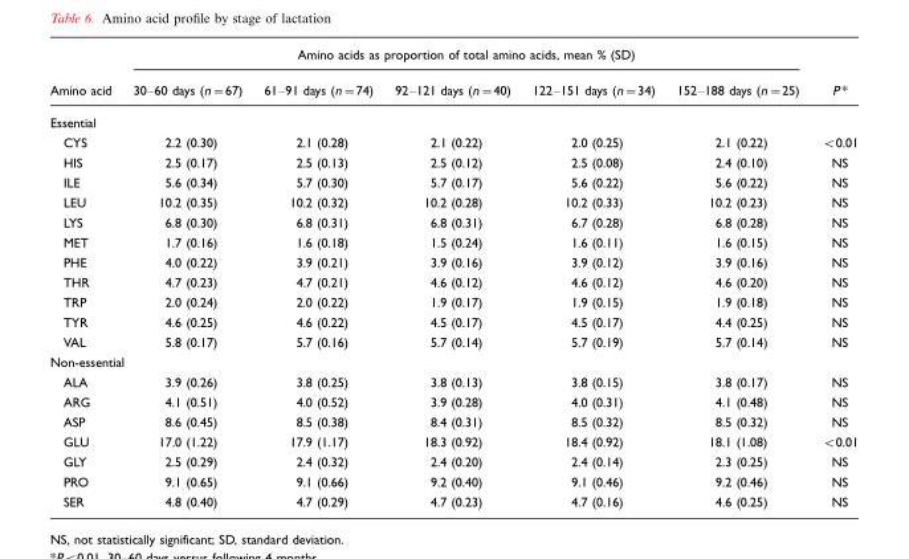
<table><thead><tr><td rowspan="2">Amino acid</td><td colspan="5">Amino acids as proportion of total amino acids, mean % (SD)</td><td rowspan="2">P *</td></tr><tr><td>30–60 days (n=67)</td><td>61–91 days (n=74)</td><td>92–121 days (n=40)</td><td>122–151 days (n=34)</td><td>152–188 days (n=25)</td></tr></thead><tbody><tr><td colspan="7">Essential</td></tr><tr><td>CYS</td><td>2.2 (0.30)</td><td>2.1 (0.28)</td><td>2.1 (0.22)</td><td>2.0 (0.25)</td><td>2.1 (0.22)</td><td>&lt;0.01</td></tr><tr><td>HIS</td><td>2.5 (0.17)</td><td>2.5 (0.13)</td><td>2.5 (0.12)</td><td>2.5 (0.08)</td><td>2.4 (0.10)</td><td>NS</td></tr><tr><td>ILE</td><td>5.6 (0.34)</td><td>5.7 (0.30)</td><td>5.7 (0.17)</td><td>5.6 (0.22)</td><td>5.6 (0.22)</td><td>NS</td></tr><tr><td>LEU</td><td>10.2 (0.35)</td><td>10.2 (0.32)</td><td>10.2 (0.28)</td><td>10.2 (0.33)</td><td>10.2 (0.23)</td><td>NS</td></tr><tr><td>LYS</td><td>6.8 (0.30)</td><td>6.8 (0.31)</td><td>6.8 (0.31)</td><td>6.7 (0.28)</td><td>6.8 (0.28)</td><td>NS</td></tr><tr><td>MET</td><td>1.7 (0.16)</td><td>1.6 (0.18)</td><td>1.5 (0.24)</td><td>1.6 (0.11)</td><td>1.6 (0.15)</td><td>NS</td></tr><tr><td>PHE</td><td>4.0 (0.22)</td><td>3.9 (0.21)</td><td>3.9 (0.16)</td><td>3.9 (0.12)</td><td>3.9 (0.16)</td><td>NS</td></tr><tr><td>THR</td><td>4.7 (0.23)</td><td>4.7 (0.21)</td><td>4.6 (0.12)</td><td>4.6 (0.12)</td><td>4.6 (0.20)</td><td>NS</td></tr><tr><td>TRP</td><td>2.0 (0.24)</td><td>2.0 (0.22)</td><td>1.9 (0.17)</td><td>1.9 (0.15)</td><td>1.9 (0.18)</td><td>NS</td></tr><tr><td>TYR</td><td>4.6 (0.25)</td><td>4.6 (0.22)</td><td>4.5 (0.17)</td><td>4.5 (0.17)</td><td>4.4 (0.25)</td><td>NS</td></tr><tr><td>VAL</td><td>5.8 (0.17)</td><td>5.7 (0.16)</td><td>5.7 (0.14)</td><td>5.7 (0.19)</td><td>5.7 (0.14)</td><td>NS</td></tr><tr><td colspan="7">Non-essential</td></tr><tr><td>ALA</td><td>3.9 (0.26)</td><td>3.8 (0.25)</td><td>3.8 (0.13)</td><td>3.8 (0.15)</td><td>3.8 (0.17)</td><td>NS</td></tr><tr><td>ARG</td><td>4.1 (0.51)</td><td>4.0 (0.52)</td><td>3.9 (0.28)</td><td>4.0 (0.31)</td><td>4.1 (0.48)</td><td>NS</td></tr><tr><td>ASP</td><td>8.6 (0.45)</td><td>8.5 (0.38)</td><td>8.4 (0.31)</td><td>8.5 (0.32)</td><td>8.5 (0.32)</td><td>NS</td></tr><tr><td>GLU</td><td>17.0 (1.22)</td><td>17.9 (1.17)</td><td>18.3 (0.92)</td><td>18.4 (0.92)</td><td>18.1 (1.08)</td><td>&lt;0.01</td></tr><tr><td>GLY</td><td>2.5 (0.29)</td><td>2.4 (0.32)</td><td>2.4 (0.20)</td><td>2.4 (0.14)</td><td>2.3 (0.25)</td><td>NS</td></tr><tr><td>PRO</td><td>9.1 (0.65)</td><td>9.1 (0.66)</td><td>9.2 (0.40)</td><td>9.1 (0.46)</td><td>9.2 (0.46)</td><td>NS</td></tr><tr><td>SER</td><td>4.8 (0.40)</td><td>4.7 (0.29)</td><td>4.7 (0.23)</td><td>4.7 (0.16)</td><td>4.6 (0.25)</td><td>NS</td></tr></tbody></table>